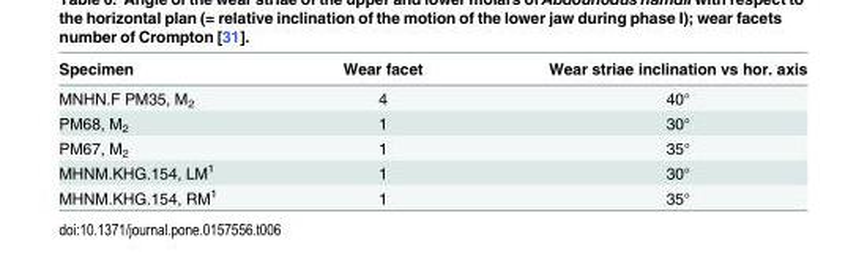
<table><thead><tr><td>Specimen</td><td>Wear facet</td><td>Wear striae inclination vs hor. axis</td></tr></thead><tbody><tr><td>MNHN.F PM35, M<sub>2</sub></td><td>4</td><td>40°</td></tr><tr><td>PM68, M<sub>2</sub></td><td>1</td><td>30°</td></tr><tr><td>PM67, M<sub>2</sub></td><td>1</td><td>35°</td></tr><tr><td>MHNM.KHG.154, LM<sup>1</sup></td><td>1</td><td>30°</td></tr><tr><td>MHNM.KHG.154, RM<sup>1</sup></td><td>1</td><td>35°</td></tr></tbody></table>